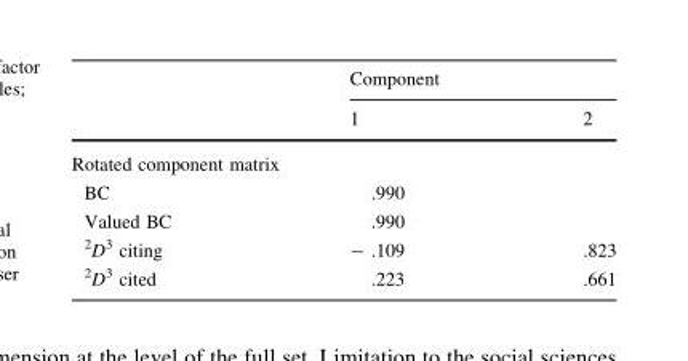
<table><thead><tr><td rowspan="2"></td><td colspan="2">Component</td></tr><tr><td>1</td><td>2</td></tr></thead><tbody><tr><td colspan="3">Rotated component matrix</td></tr><tr><td>BC</td><td>.990</td><td></td></tr><tr><td>Valued BC</td><td>.990</td><td></td></tr><tr><td><sup>2</sup>D<sup>3</sup> citing</td><td>- .109</td><td>.823</td></tr><tr><td><sup>2</sup>D<sup>3</sup> cited</td><td>.223</td><td>.661</td></tr></tbody></table>